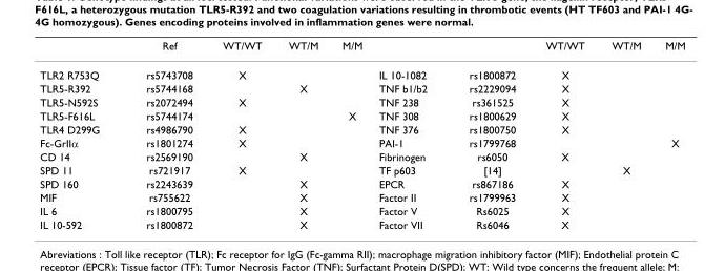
<table><thead><tr><td></td><td>Ref</td><td>WT/WT</td><td>WT/M</td><td>M/M</td><td></td><td></td><td>WT/WT</td><td>WT/M</td><td>M/M</td></tr></thead><tbody><tr><td>TLR2 R753Q</td><td>rs5743708</td><td>X</td><td></td><td></td><td>IL 10-1082</td><td>rs1800872</td><td>X</td><td></td><td></td></tr><tr><td>TLR5-R392</td><td>rs5744168</td><td></td><td>X</td><td></td><td>TNF b1/b2</td><td>rs2229094</td><td>X</td><td></td><td></td></tr><tr><td>TLR5-N592S</td><td>rs2072494</td><td>X</td><td></td><td></td><td>TNF 238</td><td>rs361525</td><td>X</td><td></td><td></td></tr><tr><td>TLR5-F616L</td><td>rs5744174</td><td></td><td></td><td>X</td><td>TNF 308</td><td>rs1800629</td><td>X</td><td></td><td></td></tr><tr><td>TLR4 D299G</td><td>rs4986790</td><td>X</td><td></td><td></td><td>TNF 376</td><td>rs1800750</td><td>X</td><td></td><td></td></tr><tr><td>Fc-GrIIα</td><td>rs1801274</td><td>X</td><td></td><td></td><td>PAI-1</td><td>rs1799768</td><td></td><td></td><td>X</td></tr><tr><td>CD 14</td><td>rs2569190</td><td></td><td>X</td><td></td><td>Fibrinogen</td><td>rs6050</td><td>X</td><td></td><td></td></tr><tr><td>SPD 11</td><td>rs721917</td><td>X</td><td></td><td></td><td>TF p603</td><td>[14]</td><td></td><td>X</td><td></td></tr><tr><td>SPD 160</td><td>rs2243639</td><td></td><td>X</td><td></td><td>EPCR</td><td>rs867186</td><td>X</td><td></td><td></td></tr><tr><td>MIF</td><td>rs755622</td><td></td><td>X</td><td></td><td>Factor II</td><td>rs1799963</td><td>X</td><td></td><td></td></tr><tr><td>IL 6</td><td>rs1800795</td><td></td><td>X</td><td></td><td>Factor V</td><td>Rs6025</td><td>X</td><td></td><td></td></tr><tr><td>IL 10-592</td><td>rs1800872</td><td></td><td>X</td><td></td><td>Factor VII</td><td>Rs6046</td><td>X</td><td></td><td></td></tr></tbody></table>